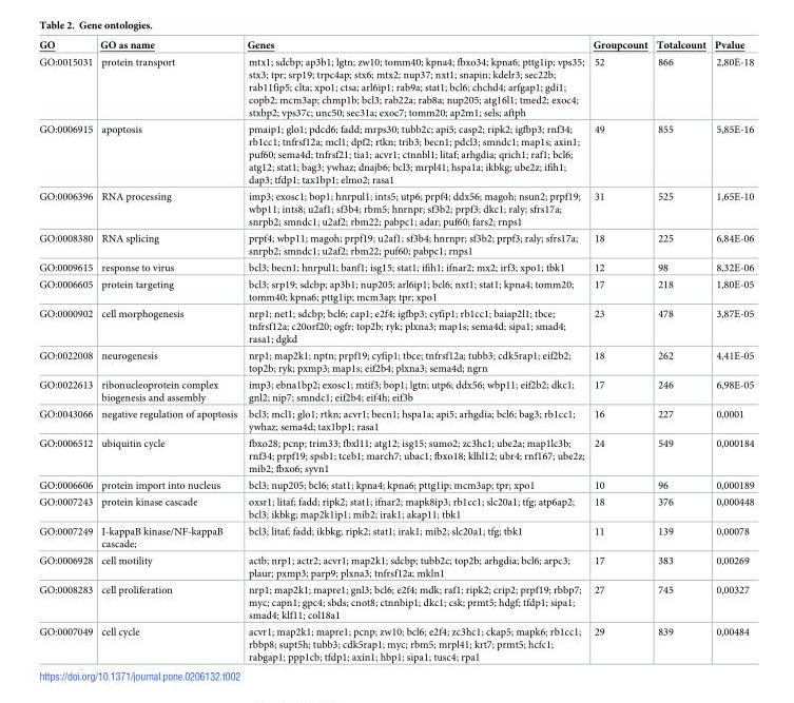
<table><thead><tr><td>GO</td><td>GO as name</td><td>Genes</td><td>Groupcount</td><td>Totalcount</td><td>Pvalue</td></tr></thead><tbody><tr><td>GO:0015031</td><td>protein transport</td><td>mtx1; sdcbp; ap3b1; lgtn; zw10; tomm40; kpna4; fbxo34; kpna6; pttg1ip; vps35; stx3; tpr; srp19; trpc4ap; stx6; mtx2; nup37; nxt1; snapin; kdelr3; sec22b; rab11fip5; clta; xpo1; ctsa; arl6ip1; rab9a; stat1; bcl6; chchd4; arfgap1; gdi1; copb2; mcm3ap; chmp1b; bcl3; rab22a; rab8a; nup205; atg16l1; tmed2; exoc4; stxbp2; vps37c; unc50; sec31a; exoc7; tomm20; ap2m1; sels; aftph</td><td>52</td><td>866</td><td>2,80E-18</td></tr><tr><td>GO:0006915</td><td>apoptosis</td><td>pmaip1; glo1; pdcd6; fadd; mrps30; tubb2c; api5; casp2; ripk2; igfbp3; rnf34; rb1cc1; tnfrsf12a; mcl1; dpf2; rtkn; trib3; becn1; pdcl3; smndc1; map1s; axin1; puf60; sema4d; tnfrsf21; tia1; acvr1; ctnnbl1; litaf; arhgdia; qrich1; raf1; bcl6; atg12; stat1; bag3; ywhaz; dnajb6; bcl3; mrpl41; hspa1a; ikbkg; ube2z; ifih1; dap3; tfdp1; tax1bp1; elmo2; rasa1</td><td>49</td><td>855</td><td>5,85E-16</td></tr><tr><td>GO:0006396</td><td>RNA processing</td><td>imp3; exosc1; bop1; hnrpul1; ints5; utp6; prpf4; ddx56; magoh; nsun2; prpf19; wbp11; ints8; u2af1; sf3b4; rbm5; hnrnpr; sf3b2; prpf3; dkc1; raly; sfrs17a; snrpb2; smndc1; u2af2; rbm22; pabpc1; adar; puf60; fars2; rnps1</td><td>31</td><td>525</td><td>1,65E-10</td></tr><tr><td>GO:0008380</td><td>RNA splicing</td><td>prpf4; wbp11; magoh; prpf19; u2af1; sf3b4; hnrnpr; sf3b2; prpf3; raly; sfrs17a; snrpb2; smndc1; u2af2; rbm22; puf60; pabpc1; rnps1</td><td>18</td><td>225</td><td>6,84E-06</td></tr><tr><td>GO:0009615</td><td>response to virus</td><td>bcl3; becn1; hnrpul1; banf1; isg15; stat1; ifih1; ifnar2; mx2; irf3; xpo1; tbk1</td><td>12</td><td>98</td><td>8,32E-06</td></tr><tr><td>GO:0006605</td><td>protein targeting</td><td>bcl3; srp19; sdcbp; ap3b1; nup205; arl6ip1; bcl6; nxt1; stat1; kpna4; tomm20; tomm40; kpna6; pttg1ip; mcm3ap; tpr; xpo1</td><td>17</td><td>218</td><td>1,80E-05</td></tr><tr><td>GO:0000902</td><td>cell morphogenesis</td><td>nrp1; net1; sdcbp; bcl6; cap1; e2f4; igfbp3; cyfip1; rb1cc1; baiap2l1; tbce; tnfrsf12a; c20orf20; ogfr; top2b; ryk; plxna3; map1s; sema4d; sipa1; smad4; rasa1; dgkd</td><td>23</td><td>478</td><td>3,87E-05</td></tr><tr><td>GO:0022008</td><td>neurogenesis</td><td>nrp1; map2k1; nptn; prpf19; cyfip1; tbce; tnfrsf12a; tubb3; cdk5rap1; eif2b2; top2b; ryk; pxmp3; map1s; eif2b4; plxna3; sema4d; ngrn</td><td>18</td><td>262</td><td>4,41E-05</td></tr><tr><td>GO:0022613</td><td>ribonucleoprotein complex biogenesis and assembly</td><td>imp3; ebna1bp2; exosc1; mtif3; bop1; lgtn; utp6; ddx56; wbp11; eif2b2; dkc1; gnl2; nip7; smndc1; eif2b4; eif4h; eif3b</td><td>17</td><td>246</td><td>6,98E-05</td></tr><tr><td>GO:0043066</td><td>negative regulation of apoptosis</td><td>bcl3; mcl1; glo1; rtkn; acvr1; becn1; hspa1a; api5; arhgdia; bcl6; bag3; rb1cc1; ywhaz; sema4d; tax1bp1; rasa1</td><td>16</td><td>227</td><td>0,0001</td></tr><tr><td>GO:0006512</td><td>ubiquitin cycle</td><td>fbxo28; pcnp; trim33; fbxl11; atg12; isg15; sumo2; zc3hc1; ube2a; map1lc3b; rnf34; prpf19; spsb1; tceb1; march7; ubac1; fbxo18; klhl12; ubr4; rnf167; ube2z; mib2; fbxo6; syvn1</td><td>24</td><td>549</td><td>0,000184</td></tr><tr><td>GO:0006606</td><td>protein import into nucleus</td><td>bcl3; nup205; bcl6; stat1; kpna4; kpna6; pttg1ip; mcm3ap; tpr; xpo1</td><td>10</td><td>96</td><td>0,000189</td></tr><tr><td>GO:0007243</td><td>protein kinase cascade</td><td>oxsr1; litaf; fadd; ripk2; stat1; ifnar2; mapk8ip3; rb1cc1; slc20a1; tfg; atp6ap2; bcl3; ikbkg; map2k1ip1; mib2; irak1; akap11; tbk1</td><td>18</td><td>376</td><td>0,000448</td></tr><tr><td>GO:0007249</td><td>I-kappaB kinase/NF-kappaB cascade;</td><td>bcl3; litaf; fadd; ikbkg; ripk2; stat1; irak1; mib2; slc20a1; tfg; tbk1</td><td>11</td><td>139</td><td>0,00078</td></tr><tr><td>GO:0006928</td><td>cell motility</td><td>actb; nrp1; actr2; acvr1; map2k1; sdcbp; tubb2c; top2b; arhgdia; bcl6; arpc3; plaur; pxmp3; parp9; plxna3; tnfrsf12a; mkln1</td><td>17</td><td>383</td><td>0,00269</td></tr><tr><td>GO:0008283</td><td>cell proliferation</td><td>nrp1; map2k1; mapre1; gnl3; bcl6; e2f4; mdk; raf1; ripk2; crip2; prpf19; rbbp7; myc; capn1; gpc4; sbds; cnot8; ctnnbip1; dkc1; csk; prmt5; hdgf; tfdp1; sipa1; smad4; klf11; col18a1</td><td>27</td><td>745</td><td>0,00327</td></tr><tr><td>GO:0007049</td><td>cell cycle</td><td>acvr1; map2k1; mapre1; pcnp; zw10; bcl6; e2f4; zc3hc1; ckap5; mapk6; rb1cc1; rbbp8; supt5h; tubb3; cdk5rap1; myc; rbm5; mrpl41; krt7; prmt5; hcfc1; rabgap1; ppp1cb; tfdp1; axin1; hbp1; sipa1; tusc4; rpa1</td><td>29</td><td>839</td><td>0,00484</td></tr></tbody></table>